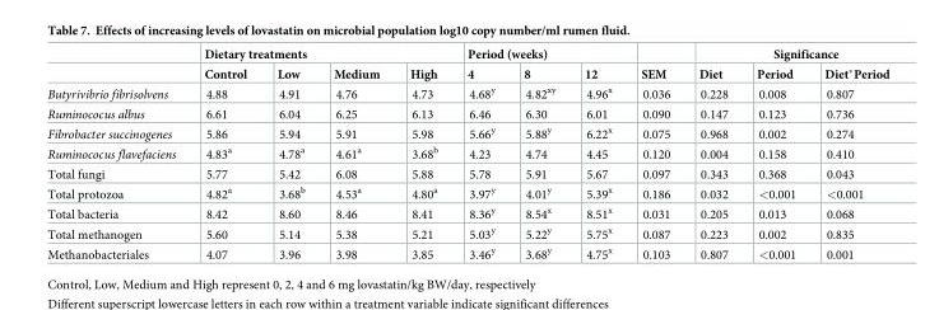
<table><thead><tr><td rowspan="2"></td><td colspan="4">Dietary treatments</td><td colspan="3">Period (weeks)</td><td rowspan="2">SEM</td><td colspan="3">Significance</td></tr><tr><td>Control</td><td>Low</td><td>Medium</td><td>High</td><td>4</td><td>8</td><td>12</td><td>Diet</td><td>Period</td><td>Diet*Period</td></tr></thead><tbody><tr><td>Butyrivibrio fibrisolvens</td><td>4.88</td><td>4.91</td><td>4.76</td><td>4.73</td><td>4.68<sup>y</sup></td><td>4.82<sup>xy</sup></td><td>4.96<sup>x</sup></td><td>0.036</td><td>0.228</td><td>0.008</td><td>0.807</td></tr><tr><td>Ruminococus albus</td><td>6.61</td><td>6.04</td><td>6.25</td><td>6.13</td><td>6.46</td><td>6.30</td><td>6.01</td><td>0.090</td><td>0.147</td><td>0.123</td><td>0.736</td></tr><tr><td>Fibrobacter succinogenes</td><td>5.86</td><td>5.94</td><td>5.91</td><td>5.98</td><td>5.66<sup>y</sup></td><td>5.88<sup>y</sup></td><td>6.22<sup>x</sup></td><td>0.075</td><td>0.968</td><td>0.002</td><td>0.274</td></tr><tr><td>Ruminococus flavefaciens</td><td>4.83<sup>a</sup></td><td>4.78<sup>a</sup></td><td>4.61<sup>a</sup></td><td>3.68<sup>b</sup></td><td>4.23</td><td>4.74</td><td>4.45</td><td>0.120</td><td>0.004</td><td>0.158</td><td>0.410</td></tr><tr><td>Total fungi</td><td>5.77</td><td>5.42</td><td>6.08</td><td>5.88</td><td>5.78</td><td>5.91</td><td>5.67</td><td>0.097</td><td>0.343</td><td>0.368</td><td>0.043</td></tr><tr><td>Total protozoa</td><td>4.82<sup>a</sup></td><td>3.68<sup>b</sup></td><td>4.53<sup>a</sup></td><td>4.80<sup>a</sup></td><td>3.97<sup>y</sup></td><td>4.01<sup>y</sup></td><td>5.39<sup>x</sup></td><td>0.186</td><td>0.032</td><td>&lt;0.001</td><td>&lt;0.001</td></tr><tr><td>Total bacteria</td><td>8.42</td><td>8.60</td><td>8.46</td><td>8.41</td><td>8.36<sup>y</sup></td><td>8.54<sup>x</sup></td><td>8.51<sup>x</sup></td><td>0.031</td><td>0.205</td><td>0.013</td><td>0.068</td></tr><tr><td>Total methanogen</td><td>5.60</td><td>5.14</td><td>5.38</td><td>5.21</td><td>5.03<sup>y</sup></td><td>5.22<sup>y</sup></td><td>5.75<sup>x</sup></td><td>0.087</td><td>0.223</td><td>0.002</td><td>0.835</td></tr><tr><td>Methanobacteriales</td><td>4.07</td><td>3.96</td><td>3.98</td><td>3.85</td><td>3.46<sup>y</sup></td><td>3.68<sup>y</sup></td><td>4.75<sup>x</sup></td><td>0.103</td><td>0.807</td><td>&lt;0.001</td><td>0.001</td></tr></tbody></table>